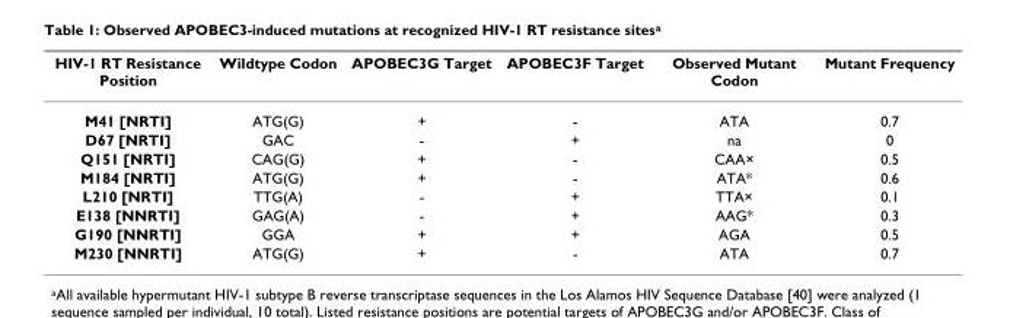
<table><thead><tr><td>HIV-1 RT Resistance Position</td><td>Wildtype Codon</td><td>APOBEC3G Target</td><td>APOBEC3F Target</td><td>Observed Mutant Codon</td><td>Mutant Frequency</td></tr></thead><tbody><tr><td>M41 [NRTI]</td><td>ATG(G)</td><td>+</td><td>-</td><td>ATA</td><td>0.7</td></tr><tr><td>D67 [NRTI]</td><td>GAC</td><td>-</td><td>+</td><td>na</td><td>0</td></tr><tr><td>Q151 [NRTI]</td><td>CAG(G)</td><td>+</td><td>-</td><td>CAA×</td><td>0.5</td></tr><tr><td>M184 [NRTI]</td><td>ATG(G)</td><td>+</td><td>-</td><td>ATA*</td><td>0.6</td></tr><tr><td>L210 [NRTI]</td><td>TTG(A)</td><td>-</td><td>+</td><td>TTA×</td><td>0.1</td></tr><tr><td>E138 [NNRTI]</td><td>GAG(A)</td><td>-</td><td>+</td><td>AAG*</td><td>0.3</td></tr><tr><td>G190 [NNRTI]</td><td>GGA</td><td>+</td><td>+</td><td>AGA</td><td>0.5</td></tr><tr><td>M230 [NNRTI]</td><td>ATG(G)</td><td>+</td><td>-</td><td>ATA</td><td>0.7</td></tr></tbody></table>